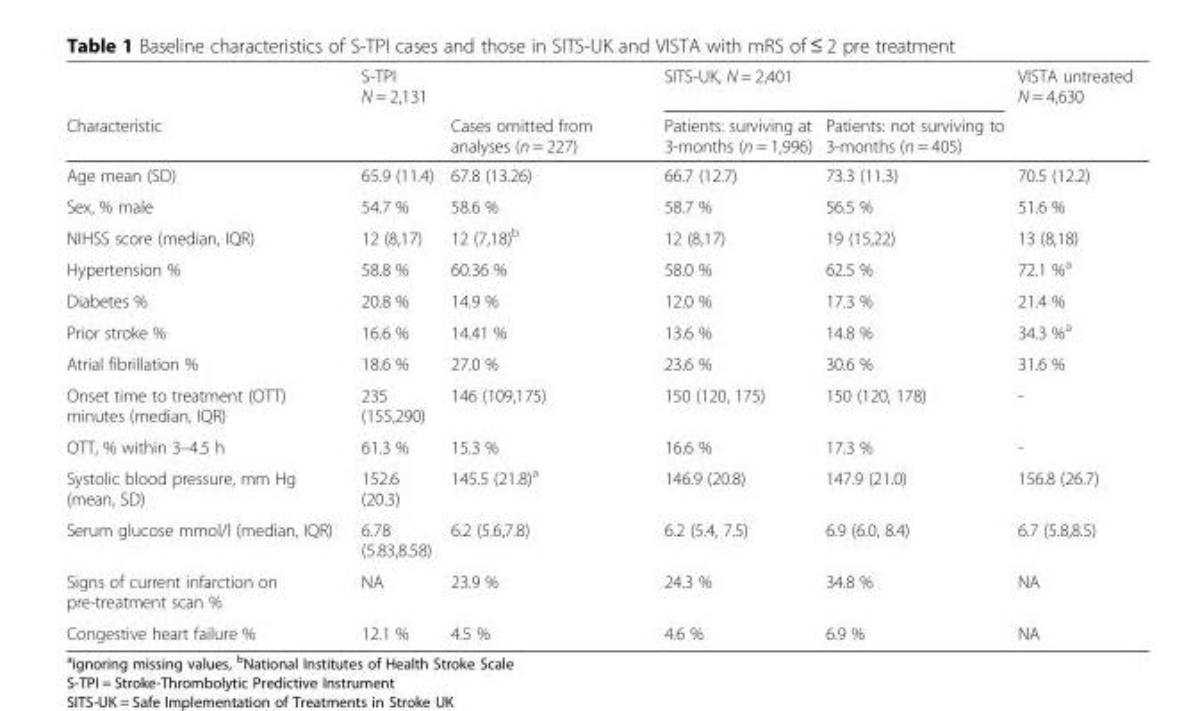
<table><thead><tr><td rowspan="2">Characteristic</td><td rowspan="2">S-TPI N = 2,131</td><td rowspan="2">Cases omitted from analyses (n = 227)</td><td colspan="2">SITS-UK, N = 2,401</td><td rowspan="2">VISTA untreated N = 4,630</td></tr><tr><td>Patients: surviving at 3-months (n = 1,996)</td><td>Patients: not surviving to 3-months (n = 405)</td></tr></thead><tbody><tr><td>Age mean (SD)</td><td>65.9 (11.4)</td><td>67.8 (13.26)</td><td>66.7 (12.7)</td><td>73.3 (11.3)</td><td>70.5 (12.2)</td></tr><tr><td>Sex, % male</td><td>54.7 %</td><td>58.6 %</td><td>58.7 %</td><td>56.5 %</td><td>51.6 %</td></tr><tr><td>NIHSS score (median, IQR)</td><td>12 (8,17)</td><td>12 (7,18)<sup>b</sup></td><td>12 (8,17)</td><td>19 (15,22)</td><td>13 (8,18)</td></tr><tr><td>Hypertension %</td><td>58.8 %</td><td>60.36 %</td><td>58.0 %</td><td>62.5 %</td><td>72.1 %<sup>a</sup></td></tr><tr><td>Diabetes %</td><td>20.8 %</td><td>14.9 %</td><td>12.0 %</td><td>17.3 %</td><td>21.4 %</td></tr><tr><td>Prior stroke %</td><td>16.6 %</td><td>14.41 %</td><td>13.6 %</td><td>14.8 %</td><td>34.3 %<sup>a</sup></td></tr><tr><td>Atrial fibrillation %</td><td>18.6 %</td><td>27.0 %</td><td>23.6 %</td><td>30.6 %</td><td>31.6 %</td></tr><tr><td>Onset time to treatment (OTT) minutes (median, IQR)</td><td>235 (155,290)</td><td>146 (109,175)</td><td>150 (120, 175)</td><td>150 (120, 178)</td><td>-</td></tr><tr><td>OTT, % within 3–4.5 h</td><td>61.3 %</td><td>15.3 %</td><td>16.6 %</td><td>17.3 %</td><td>-</td></tr><tr><td>Systolic blood pressure, mm Hg (mean, SD)</td><td>152.6 (20.3)</td><td>145.5 (21.8)<sup>a</sup></td><td>146.9 (20.8)</td><td>147.9 (21.0)</td><td>156.8 (26.7)</td></tr><tr><td>Serum glucose mmol/l (median, IQR)</td><td>6.78 (5.83,8.58)</td><td>6.2 (5.6,7.8)</td><td>6.2 (5.4, 7.5)</td><td>6.9 (6.0, 8.4)</td><td>6.7 (5.8,8.5)</td></tr><tr><td>Signs of current infarction on pre-treatment scan %</td><td>NA</td><td>23.9 %</td><td>24.3 %</td><td>34.8 %</td><td>NA</td></tr><tr><td>Congestive heart failure %</td><td>12.1 %</td><td>4.5 %</td><td>4.6 %</td><td>6.9 %</td><td>NA</td></tr></tbody></table>